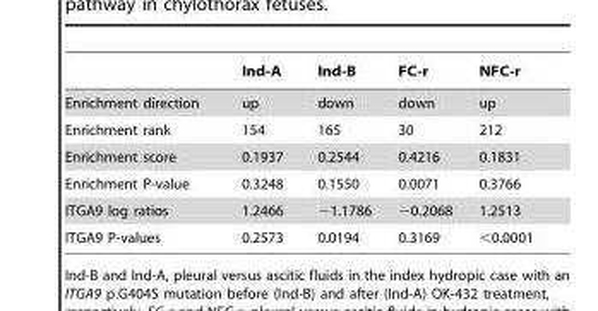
<table><thead><tr><td></td><td>Ind-A</td><td>Ind-B</td><td>FC-r</td><td>NFC-r</td></tr></thead><tbody><tr><td>Enrichment direction</td><td>up</td><td>down</td><td>down</td><td>up</td></tr><tr><td>Enrichment rank</td><td>154</td><td>165</td><td>30</td><td>212</td></tr><tr><td>Enrichment score</td><td>0.1937</td><td>0.2544</td><td>0.4216</td><td>0.1831</td></tr><tr><td>Enrichment P-value</td><td>0.3248</td><td>0.1550</td><td>0.0071</td><td>0.3766</td></tr><tr><td>ITGA9 log ratios</td><td>1.2466</td><td>−1.1786</td><td>−0.2068</td><td>1.2513</td></tr><tr><td>ITGA9 P-values</td><td>0.2573</td><td>0.0194</td><td>0.3169</td><td>&lt;0.0001</td></tr></tbody></table>